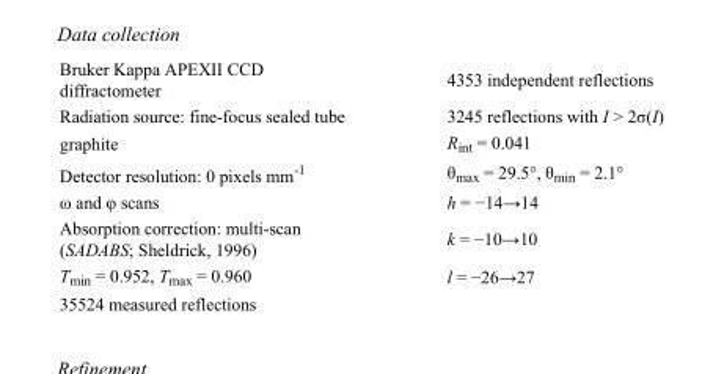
<table><tbody><tr><td>Bruker Kappa APEXII CCD diffractometer</td><td>4353 independent reflections</td></tr><tr><td>Radiation source: fine-focus sealed tube</td><td>3245 reflections with I &gt; 2σ(I)</td></tr><tr><td>graphite</td><td>R<sub>int</sub> = 0.041</td></tr><tr><td>Detector resolution: 0 pixels mm<sup>-1</sup></td><td>θ<sub>max</sub> = 29.5°, θ<sub>min</sub> = 2.1°</td></tr><tr><td>ω and φ scans</td><td>h = −14→14</td></tr><tr><td>Absorption correction: multi-scan (SADABS; Sheldrick, 1996)</td><td>k = −10→10</td></tr><tr><td>T<sub>min</sub> = 0.952, T<sub>max</sub> = 0.960</td><td>l = −26→27</td></tr><tr><td>35524 measured reflections</td><td></td></tr></tbody></table>